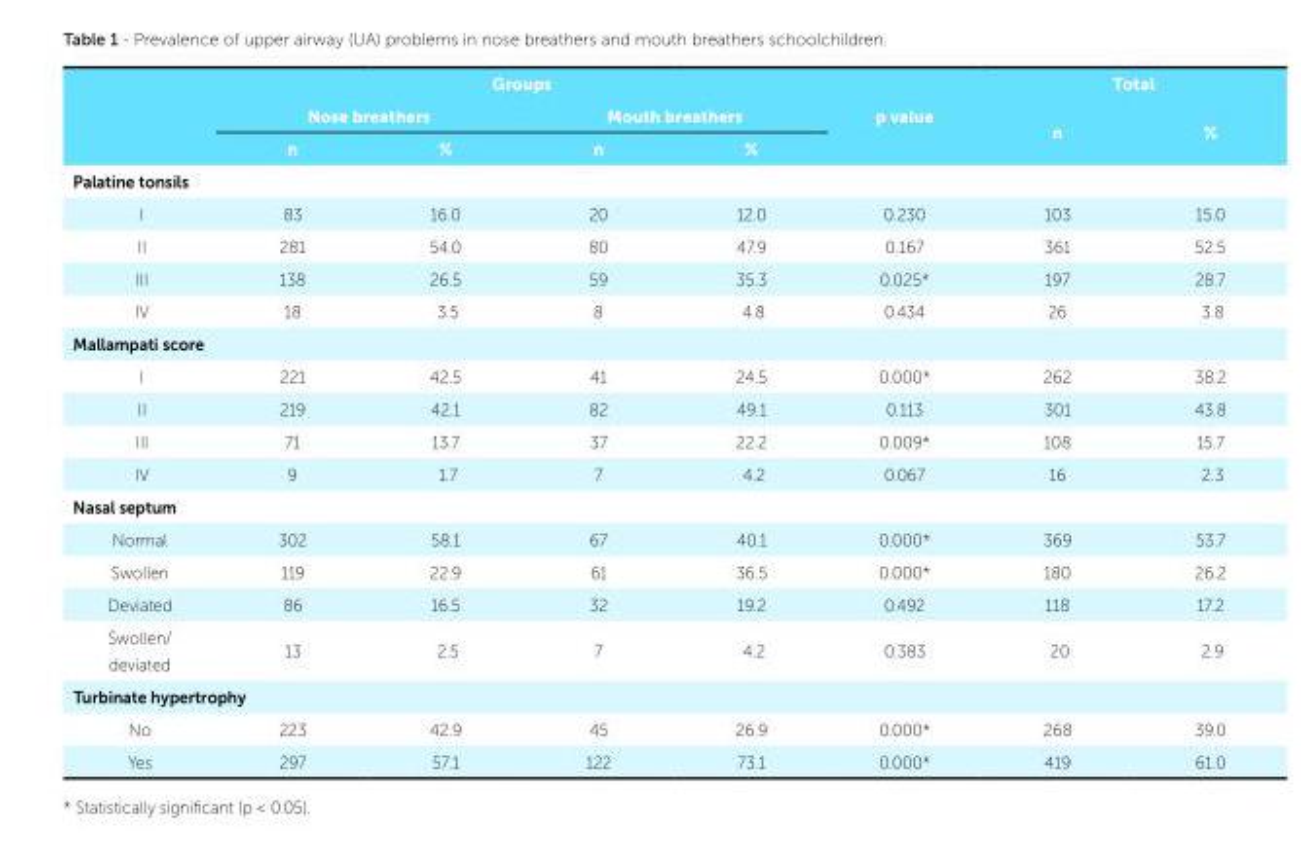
<table><thead><tr><td rowspan="3"></td><td colspan="4">Groups</td><td rowspan="3">p value</td><td colspan="2">Total</td></tr><tr><td colspan="2">Nose breathers</td><td colspan="2">Mouth breathers</td><td rowspan="2">n</td><td rowspan="2">%</td></tr><tr><td>n</td><td>%</td><td>n</td><td>%</td></tr></thead><tbody><tr><td colspan="8">Palatine tonsils</td></tr><tr><td>I</td><td>83</td><td>16.0</td><td>20</td><td>12.0</td><td>0.230</td><td>103</td><td>15.0</td></tr><tr><td>II</td><td>281</td><td>54.0</td><td>80</td><td>47.9</td><td>0.167</td><td>361</td><td>52.5</td></tr><tr><td>III</td><td>138</td><td>26.5</td><td>59</td><td>35.3</td><td>0.025*</td><td>197</td><td>28.7</td></tr><tr><td>IV</td><td>18</td><td>3.5</td><td>8</td><td>4.8</td><td>0.434</td><td>26</td><td>3.8</td></tr><tr><td colspan="8">Mallampati score</td></tr><tr><td>I</td><td>221</td><td>42.5</td><td>41</td><td>24.5</td><td>0.000*</td><td>262</td><td>38.2</td></tr><tr><td>II</td><td>219</td><td>42.1</td><td>82</td><td>49.1</td><td>0.113</td><td>301</td><td>43.8</td></tr><tr><td>III</td><td>71</td><td>13.7</td><td>37</td><td>22.2</td><td>0.009*</td><td>108</td><td>15.7</td></tr><tr><td>IV</td><td>9</td><td>1.7</td><td>7</td><td>4.2</td><td>0.067</td><td>16</td><td>2.3</td></tr><tr><td colspan="8">Nasal septum</td></tr><tr><td>Normal</td><td>302</td><td>58.1</td><td>67</td><td>40.1</td><td>0.000*</td><td>369</td><td>53.7</td></tr><tr><td>Swollen</td><td>119</td><td>22.9</td><td>61</td><td>36.5</td><td>0.000*</td><td>180</td><td>26.2</td></tr><tr><td>Deviated</td><td>86</td><td>16.5</td><td>32</td><td>19.2</td><td>0.492</td><td>118</td><td>17.2</td></tr><tr><td>Swollen/ deviated</td><td>13</td><td>2.5</td><td>7</td><td>4.2</td><td>0.383</td><td>20</td><td>2.9</td></tr><tr><td colspan="8">Turbinate hypertrophy</td></tr><tr><td>No</td><td>223</td><td>42.9</td><td>45</td><td>26.9</td><td>0.000*</td><td>268</td><td>39.0</td></tr><tr><td>Yes</td><td>297</td><td>57.1</td><td>122</td><td>73.1</td><td>0.000*</td><td>419</td><td>61.0</td></tr></tbody></table>